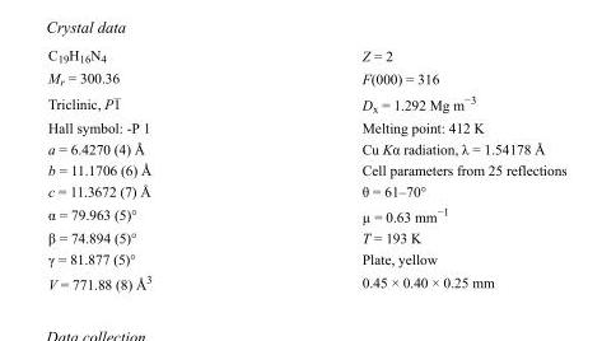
<table><tbody><tr><td>C<sub>19</sub>H<sub>16</sub>N<sub>4</sub></td><td>Z = 2</td></tr><tr><td>M<sub>r</sub> = 300.36</td><td>F(000) = 316</td></tr><tr><td>Triclinic, P1</td><td>D<sub>x</sub> = 1.292 Mg m<sup>−3</sup></td></tr><tr><td>Hall symbol: -P 1</td><td>Melting point: 412 K</td></tr><tr><td>a = 6.4270 (4) Å</td><td>Cu Kα radiation, λ = 1.54178 Å</td></tr><tr><td>b = 11.1706 (6) Å</td><td>Cell parameters from 25 reflections</td></tr><tr><td>c = 11.3672 (7) Å</td><td>θ = 61–70°</td></tr><tr><td>α = 79.963 (5)°</td><td>µ = 0.63 mm<sup>−1</sup></td></tr><tr><td>β = 74.894 (5)°</td><td>T = 193 K</td></tr><tr><td>γ = 81.877 (5)°</td><td>Plate, yellow</td></tr><tr><td>V = 771.88 (8) Å<sup>3</sup></td><td>0.45 × 0.40 × 0.25 mm</td></tr></tbody></table>